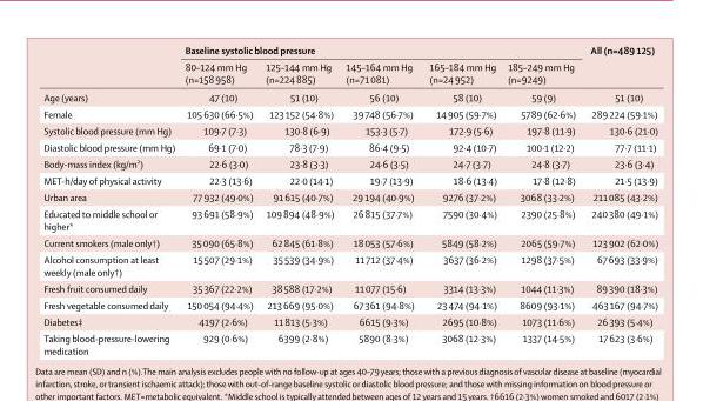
<table><thead><tr><td rowspan="2"></td><td colspan="5">Baseline systolic blood pressure</td><td rowspan="2">All (n=489 125)</td></tr><tr><td>80–124 mm Hg (n=158 958)</td><td>125–144 mm Hg (n=224 885)</td><td>145–164 mm Hg (n=71 081)</td><td>165–184 mm Hg (n=24 952)</td><td>185–249 mm Hg (n=9249)</td></tr></thead><tbody><tr><td>Age (years)</td><td>47 (10)</td><td>51 (10)</td><td>56 (10)</td><td>58 (10)</td><td>59 (9)</td><td>51 (10)</td></tr><tr><td>Female</td><td>105 630 (66·5%)</td><td>123 152 (54·8%)</td><td>39 748 (56·7%)</td><td>14 905 (59·7%)</td><td>5789 (62·6%)</td><td>289 224 (59·1%)</td></tr><tr><td>Systolic blood pressure (mm Hg)</td><td>109·7 (7·3)</td><td>130·8 (6·9)</td><td>153·3 (5·7)</td><td>172·9 (5·6)</td><td>197·8 (11·9)</td><td>130·6 (21·0)</td></tr><tr><td>Diastolic blood pressure (mm Hg)</td><td>69·1 (7·0)</td><td>78·3 (7·9)</td><td>86·4 (9·5)</td><td>92·4 (10·7)</td><td>100·1 (12·2)</td><td>77·7 (11·1)</td></tr><tr><td>Body-mass index (kg/m²)</td><td>22·6 (3·0)</td><td>23·8 (3·3)</td><td>24·6 (3·5)</td><td>24·7 (3·7)</td><td>24·8 (3·7)</td><td>23·6 (3·4)</td></tr><tr><td>MET-h/day of physical activity</td><td>22·3 (13·6)</td><td>22·0 (14·1)</td><td>19·7 (13·9)</td><td>18·6 (13·4)</td><td>17·8 (12·8)</td><td>21·5 (13·9)</td></tr><tr><td>Urban area</td><td>77 932 (49·0%)</td><td>91 615 (40·7%)</td><td>29 194 (40·9%)</td><td>9276 (37·2%)</td><td>3068 (33·2%)</td><td>211 085 (43·2%)</td></tr><tr><td>Educated to middle school or higher*</td><td>93 691 (58·9%)</td><td>109 894 (48·9%)</td><td>26 815 (37·7%)</td><td>7590 (30·4%)</td><td>2390 (25·8%)</td><td>240 380 (49·1%)</td></tr><tr><td>Current smokers (male only†)</td><td>35 090 (65·8%)</td><td>62 845 (61·8%)</td><td>18 053 (57·6%)</td><td>5849 (58·2%)</td><td>2065 (59·7%)</td><td>123 902 (62·0%)</td></tr><tr><td>Alcohol consumption at least weekly (male only†)</td><td>15 507 (29·1%)</td><td>35 539 (34·9%)</td><td>11 712 (37·4%)</td><td>3637 (36·2%)</td><td>1298 (37·5%)</td><td>67 693 (33·9%)</td></tr><tr><td>Fresh fruit consumed daily</td><td>35 367 (22·2%)</td><td>38 588 (17·2%)</td><td>11 077 (15·6)</td><td>3314 (13·3%)</td><td>1044 (11·3%)</td><td>89 390 (18·3%)</td></tr><tr><td>Fresh vegetable consumed daily</td><td>150 054 (94·4%)</td><td>213 669 (95·0%)</td><td>67 361 (94·8%)</td><td>23 474 (94·1%)</td><td>8609 (93·1%)</td><td>463 167 (94·7%)</td></tr><tr><td>Diabetes‡</td><td>4197 (2·6%)</td><td>11 813 (5·3%)</td><td>6615 (9·3%)</td><td>2695 (10·8%)</td><td>1073 (11·6%)</td><td>26 393 (5·4%)</td></tr><tr><td>Taking blood-pressure-lowering medication</td><td>929 (0·6%)</td><td>6399 (2·8%)</td><td>5890 (8·3%)</td><td>3068 (12·3%)</td><td>1337 (14·5%)</td><td>17 623 (3·6%)</td></tr></tbody></table>